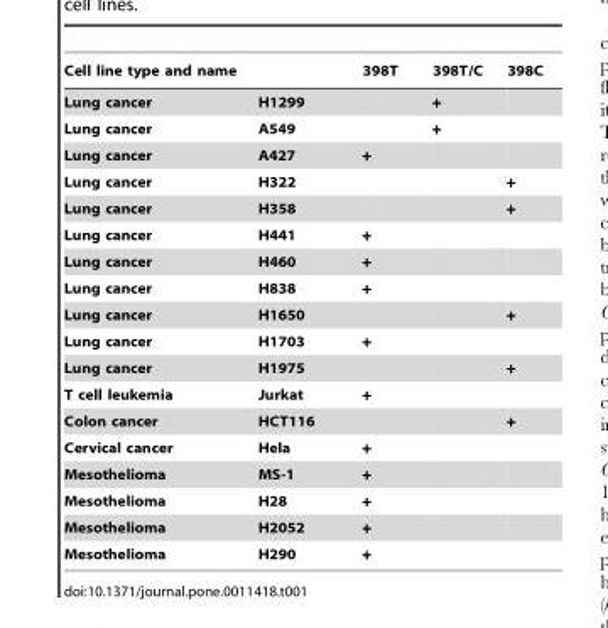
<table><thead><tr><td colspan="2">Cell line type and name</td><td rowspan="2">398T</td><td rowspan="2">398T/C +</td><td rowspan="2">398C</td></tr><tr><td>Lung cancer</td><td>H1299</td></tr></thead><tbody><tr><td>Lung cancer</td><td>A549</td><td></td><td>+</td><td></td></tr><tr><td>Lung cancer</td><td>A427</td><td>+</td><td></td><td></td></tr><tr><td>Lung cancer</td><td>H322</td><td></td><td></td><td>+</td></tr><tr><td>Lung cancer</td><td>H358</td><td></td><td></td><td>+</td></tr><tr><td>Lung cancer</td><td>H441</td><td>+</td><td></td><td></td></tr><tr><td>Lung cancer</td><td>H460</td><td>+</td><td></td><td></td></tr><tr><td>Lung cancer</td><td>H838</td><td>+</td><td></td><td></td></tr><tr><td>Lung cancer</td><td>H1650</td><td></td><td></td><td>+</td></tr><tr><td>Lung cancer</td><td>H1703</td><td>+</td><td></td><td></td></tr><tr><td>Lung cancer</td><td>H1975</td><td></td><td></td><td>+</td></tr><tr><td>T cell leukemia</td><td>Jurkat</td><td>+</td><td></td><td></td></tr><tr><td>Colon cancer</td><td>HCT116</td><td></td><td></td><td>+</td></tr><tr><td>Cervical cancer</td><td>Hela</td><td>+</td><td></td><td></td></tr><tr><td>Mesothelioma</td><td>MS-1</td><td>+</td><td></td><td></td></tr><tr><td>Mesothelioma</td><td>H28</td><td>+</td><td></td><td></td></tr><tr><td>Mesothelioma</td><td>H2052</td><td>+</td><td></td><td></td></tr><tr><td>Mesothelioma</td><td>H290</td><td>+</td><td></td><td></td></tr></tbody></table>